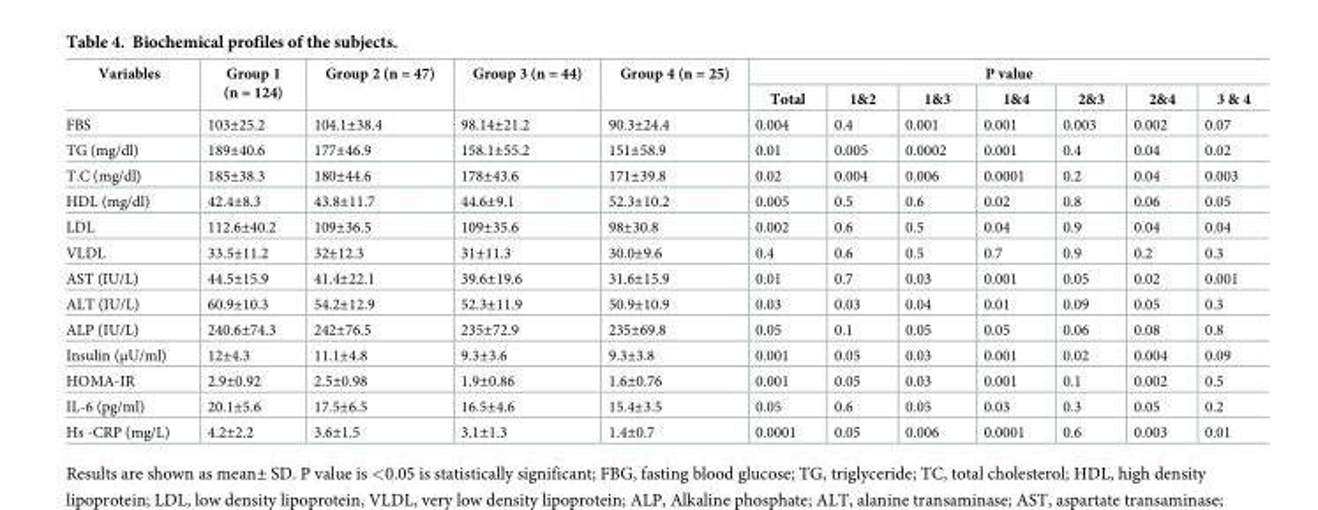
<table><thead><tr><td rowspan="2">Variables</td><td rowspan="2">Group 1 (n = 124)</td><td rowspan="2">Group 2 (n = 47)</td><td rowspan="2">Group 3 (n = 44)</td><td rowspan="2">Group 4 (n = 25)</td><td colspan="7">P value</td></tr><tr><td>Total</td><td>1&amp;2</td><td>1&amp;3</td><td>1&amp;4</td><td>2&amp;3</td><td>2&amp;4</td><td>3 &amp; 4</td></tr></thead><tbody><tr><td>FBS</td><td>103±25.2</td><td>104.1±38.4</td><td>98.14±21.2</td><td>90.3±24.4</td><td>0.004</td><td>0.4</td><td>0.001</td><td>0.001</td><td>0.003</td><td>0.002</td><td>0.07</td></tr><tr><td>TG (mg/dl)</td><td>189±40.6</td><td>177±46.9</td><td>158.1±55.2</td><td>151±58.9</td><td>0.01</td><td>0.005</td><td>0.0002</td><td>0.001</td><td>0.4</td><td>0.04</td><td>0.02</td></tr><tr><td>T.C (mg/dl)</td><td>185±38.3</td><td>180±44.6</td><td>178±43.6</td><td>171±39.8</td><td>0.02</td><td>0.004</td><td>0.006</td><td>0.0001</td><td>0.2</td><td>0.04</td><td>0.003</td></tr><tr><td>HDL (mg/dl)</td><td>42.4±8.3</td><td>43.8±11.7</td><td>44.6±9.1</td><td>52.3±10.2</td><td>0.005</td><td>0.5</td><td>0.6</td><td>0.02</td><td>0.8</td><td>0.06</td><td>0.05</td></tr><tr><td>LDL</td><td>112.6±40.2</td><td>109±36.5</td><td>109±35.6</td><td>98±30.8</td><td>0.002</td><td>0.6</td><td>0.5</td><td>0.04</td><td>0.9</td><td>0.04</td><td>0.04</td></tr><tr><td>VLDL</td><td>33.5±11.2</td><td>32±12.3</td><td>31±11.3</td><td>30.0±9.6</td><td>0.4</td><td>0.6</td><td>0.5</td><td>0.7</td><td>0.9</td><td>0.2</td><td>0.3</td></tr><tr><td>AST (IU/L)</td><td>44.5±15.9</td><td>41.4±22.1</td><td>39.6±19.6</td><td>31.6±15.9</td><td>0.01</td><td>0.7</td><td>0.03</td><td>0.001</td><td>0.05</td><td>0.02</td><td>0.001</td></tr><tr><td>ALT (IU/L)</td><td>60.9±10.3</td><td>54.2±12.9</td><td>52.3±11.9</td><td>50.9±10.9</td><td>0.03</td><td>0.03</td><td>0.04</td><td>0.01</td><td>0.09</td><td>0.05</td><td>0.3</td></tr><tr><td>ALP (IU/L)</td><td>240.6±74.3</td><td>242±76.5</td><td>235±72.9</td><td>235±69.8</td><td>0.05</td><td>0.1</td><td>0.05</td><td>0.05</td><td>0.06</td><td>0.08</td><td>0.8</td></tr><tr><td>Insulin (μU/ml)</td><td>12±4.3</td><td>11.1±4.8</td><td>9.3±3.6</td><td>9.3±3.8</td><td>0.001</td><td>0.05</td><td>0.03</td><td>0.001</td><td>0.02</td><td>0.004</td><td>0.09</td></tr><tr><td>HOMA-IR</td><td>2.9±0.92</td><td>2.5±0.98</td><td>1.9±0.86</td><td>1.6±0.76</td><td>0.001</td><td>0.05</td><td>0.03</td><td>0.001</td><td>0.1</td><td>0.002</td><td>0.5</td></tr><tr><td>IL-6 (pg/ml)</td><td>20.1±5.6</td><td>17.5±6.5</td><td>16.5±4.6</td><td>15.4±3.5</td><td>0.05</td><td>0.6</td><td>0.05</td><td>0.03</td><td>0.3</td><td>0.05</td><td>0.2</td></tr><tr><td>Hs -CRP (mg/L)</td><td>4.2±2.2</td><td>3.6±1.5</td><td>3.1±1.3</td><td>1.4±0.7</td><td>0.0001</td><td>0.05</td><td>0.006</td><td>0.0001</td><td>0.6</td><td>0.003</td><td>0.01</td></tr></tbody></table>